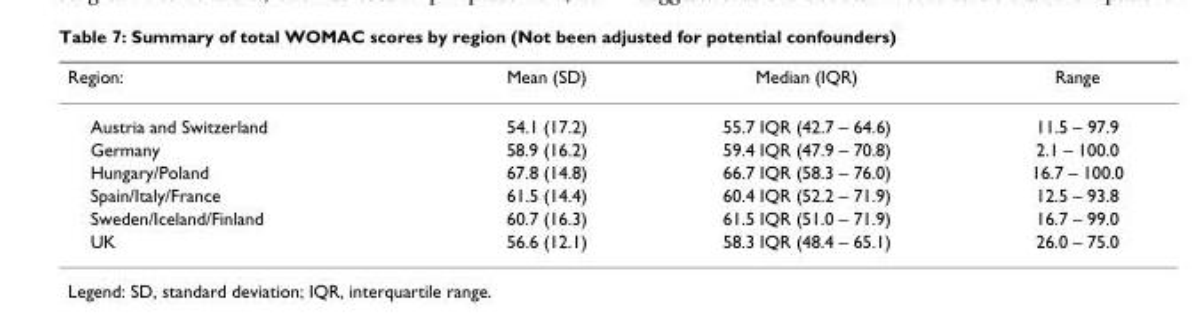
<table><thead><tr><td>Region:</td><td>Mean (SD)</td><td>Median (IQR)</td><td>Range</td></tr></thead><tbody><tr><td>Austria and Switzerland</td><td>54.1 (17.2)</td><td>55.7 IQR (42.7 – 64.6)</td><td>11.5 – 97.9</td></tr><tr><td>Germany</td><td>58.9 (16.2)</td><td>59.4 IQR (47.9 – 70.8)</td><td>2.1 – 100.0</td></tr><tr><td>Hungary/Poland</td><td>67.8 (14.8)</td><td>66.7 IQR (58.3 – 76.0)</td><td>16.7 – 100.0</td></tr><tr><td>Spain/Italy/France</td><td>61.5 (14.4)</td><td>60.4 IQR (52.2 – 71.9)</td><td>12.5 – 93.8</td></tr><tr><td>Sweden/Iceland/Finland</td><td>60.7 (16.3)</td><td>61.5 IQR (51.0 – 71.9)</td><td>16.7 – 99.0</td></tr><tr><td>UK</td><td>56.6 (12.1)</td><td>58.3 IQR (48.4 – 65.1)</td><td>26.0 – 75.0</td></tr></tbody></table>